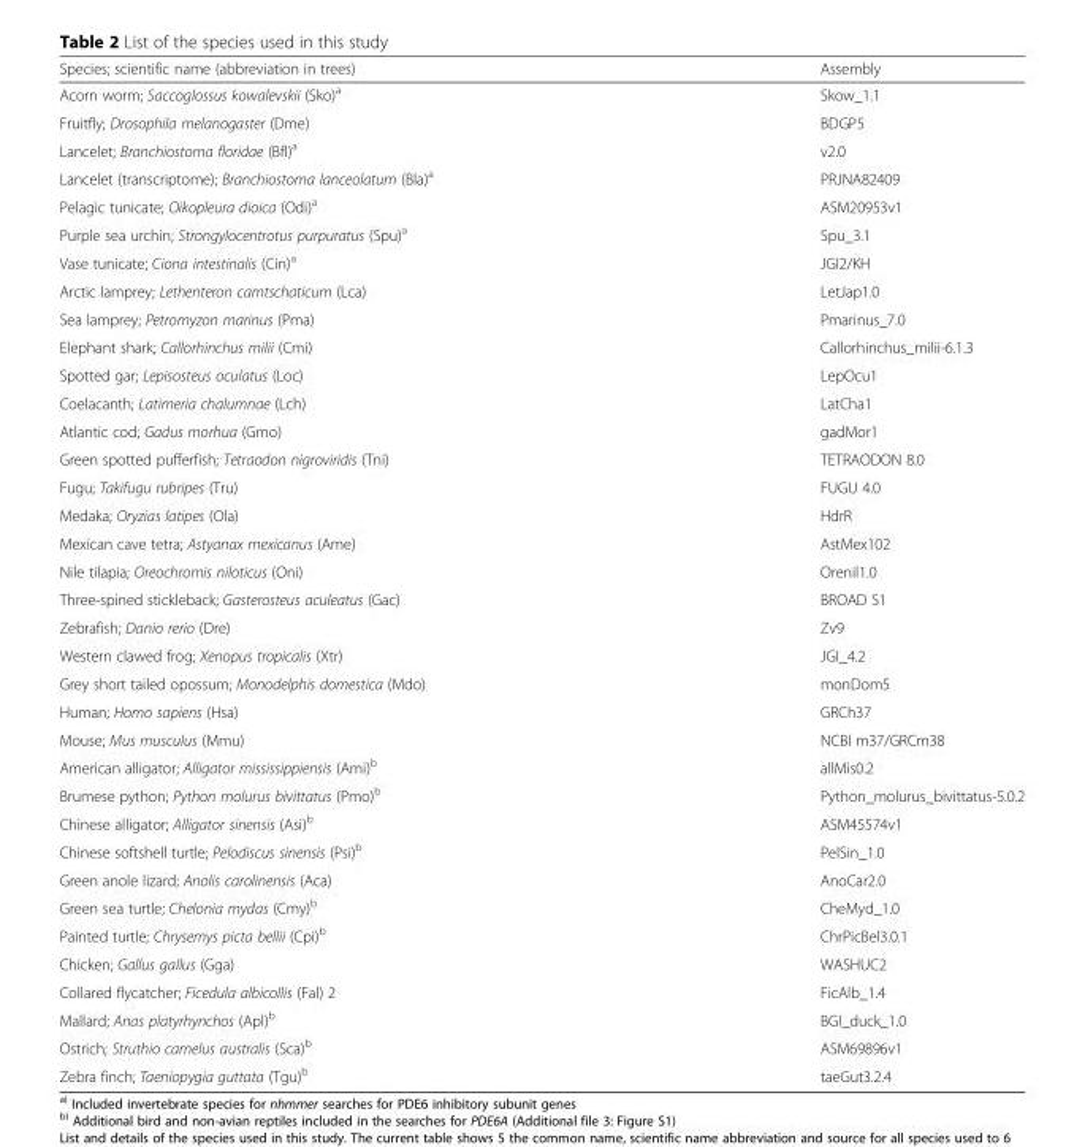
<table><thead><tr><td>Species; scientific name (abbreviation in trees)</td><td>Assembly</td></tr></thead><tbody><tr><td>Acorn worm; Saccoglossus kowalevskii (Sko)<sup>a</sup></td><td>Skow_1.1</td></tr><tr><td>Fruitfly; Drosophila melanogaster (Dme)</td><td>BDGP5</td></tr><tr><td>Lancelet; Branchiostoma floridae (Bfl)<sup>a</sup></td><td>v2.0</td></tr><tr><td>Lancelet (transcriptome); Branchiostoma lanceolatum (Bla)<sup>a</sup></td><td>PRJNA82409</td></tr><tr><td>Pelagic tunicate; Oikopleura dioica (Odi)<sup>a</sup></td><td>ASM20953v1</td></tr><tr><td>Purple sea urchin; Strongylocentrotus purpuratus (Spu)<sup>a</sup></td><td>Spu_3.1</td></tr><tr><td>Vase tunicate; Ciona intestinalis (Cin)<sup>a</sup></td><td>JGI2/KH</td></tr><tr><td>Arctic lamprey; Lethenteron camtschaticum (Lca)</td><td>LetJap1.0</td></tr><tr><td>Sea lamprey; Petromyzon marinus (Pma)</td><td>Pmarinus_7.0</td></tr><tr><td>Elephant shark; Callorhinchus milii (Cmi)</td><td>Callorhinchus_milii-6.1.3</td></tr><tr><td>Spotted gar; Lepisosteus oculatus (Loc)</td><td>LepOcu1</td></tr><tr><td>Coelacanth; Latimeria chalumnae (Lch)</td><td>LatCha1</td></tr><tr><td>Atlantic cod; Gadus morhua (Gmo)</td><td>gadMor1</td></tr><tr><td>Green spotted pufferfish; Tetraodon nigroviridis (Tni)</td><td>TETRAODON 8.0</td></tr><tr><td>Fugu; Takifugu rubripes (Tru)</td><td>FUGU 4.0</td></tr><tr><td>Medaka; Oryzias latipes (Ola)</td><td>HdrR</td></tr><tr><td>Mexican cave tetra; Astyanax mexicanus (Ame)</td><td>AstMex102</td></tr><tr><td>Nile tilapia; Oreochromis niloticus (Oni)</td><td>Orenil1.0</td></tr><tr><td>Three-spined stickleback; Gasterosteus aculeatus (Gac)</td><td>BROAD S1</td></tr><tr><td>Zebrafish; Danio rerio (Dre)</td><td>Zv9</td></tr><tr><td>Western clawed frog; Xenopus tropicalis (Xtr)</td><td>JGI_4.2</td></tr><tr><td>Grey short tailed opossum; Monodelphis domestica (Mdo)</td><td>monDom5</td></tr><tr><td>Human; Homo sapiens (Hsa)</td><td>GRCh37</td></tr><tr><td>Mouse; Mus musculus (Mmu)</td><td>NCBI m37/GRCm38</td></tr><tr><td>American alligator; Alligator mississippiensis (Ami)<sup>b</sup></td><td>allMis0.2</td></tr><tr><td>Brumese python; Python molurus bivittatus (Pmo)<sup>b</sup></td><td>Python_molurus_bivittatus-5.0.2</td></tr><tr><td>Chinese alligator; Alligator sinensis (Asi)<sup>b</sup></td><td>ASM45574v1</td></tr><tr><td>Chinese softshell turtle; Pelodiscus sinensis (Psi)<sup>b</sup></td><td>PelSin_1.0</td></tr><tr><td>Green anole lizard; Anolis carolinensis (Aca)</td><td>AnoCar2.0</td></tr><tr><td>Green sea turtle; Chelonia mydas (Cmy)<sup>b</sup></td><td>CheMyd_1.0</td></tr><tr><td>Painted turtle; Chrysemys picta bellii (Cpi)<sup>b</sup></td><td>ChrPicBel3.0.1</td></tr><tr><td>Chicken; Gallus gallus (Gga)</td><td>WASHUC2</td></tr><tr><td>Collared flycatcher; Ficedula albicollis (Fal) 2</td><td>FicAlb_1.4</td></tr><tr><td>Mallard; Anas platyrhynchos (Apl)<sup>b</sup></td><td>BGI_duck_1.0</td></tr><tr><td>Ostrich; Struthio camelus australis (Sca)<sup>b</sup></td><td>ASM69896v1</td></tr><tr><td>Zebra finch; Taeniopygia guttata (Tgu)<sup>b</sup></td><td>taeGut3.2.4</td></tr></tbody></table>